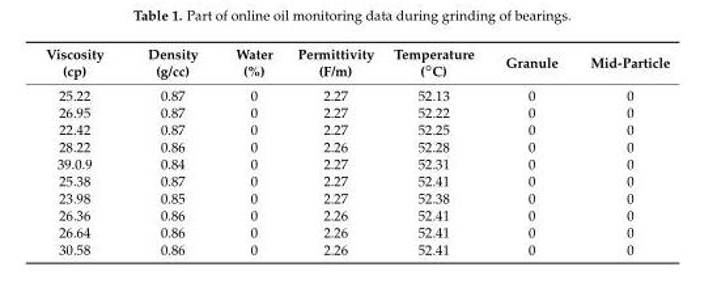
<table><thead><tr><td>Viscosity (cp)</td><td>Density (g/cc)</td><td>Water (%)</td><td>Permittivity (F/m)</td><td>Temperature (◦C)</td><td>Granule</td><td>Mid-Particle</td></tr></thead><tbody><tr><td>25.22</td><td>0.87</td><td>0</td><td>2.27</td><td>52.13</td><td>0</td><td>0</td></tr><tr><td>26.95</td><td>0.87</td><td>0</td><td>2.27</td><td>52.22</td><td>0</td><td>0</td></tr><tr><td>22.42</td><td>0.87</td><td>0</td><td>2.27</td><td>52.25</td><td>0</td><td>0</td></tr><tr><td>28.22</td><td>0.86</td><td>0</td><td>2.26</td><td>52.28</td><td>0</td><td>0</td></tr><tr><td>39.0.9</td><td>0.84</td><td>0</td><td>2.27</td><td>52.31</td><td>0</td><td>0</td></tr><tr><td>25.38</td><td>0.87</td><td>0</td><td>2.27</td><td>52.41</td><td>0</td><td>0</td></tr><tr><td>23.98</td><td>0.85</td><td>0</td><td>2.27</td><td>52.38</td><td>0</td><td>0</td></tr><tr><td>26.36</td><td>0.86</td><td>0</td><td>2.26</td><td>52.41</td><td>0</td><td>0</td></tr><tr><td>26.64</td><td>0.86</td><td>0</td><td>2.26</td><td>52.41</td><td>0</td><td>0</td></tr><tr><td>30.58</td><td>0.86</td><td>0</td><td>2.26</td><td>52.41</td><td>0</td><td>0</td></tr></tbody></table>